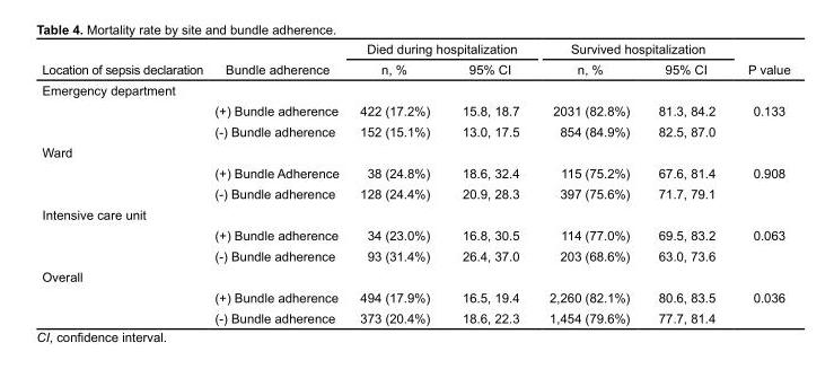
<table><thead><tr><td rowspan="2">Location of sepsis declaration</td><td rowspan="2">Bundle adherence</td><td colspan="2">Died during hospitalization</td><td colspan="2">Survived hospitalization</td><td rowspan="2">P value</td></tr><tr><td>n, %</td><td>95% CI</td><td>n, %</td><td>95% CI</td></tr></thead><tbody><tr><td colspan="7">Emergency department</td></tr><tr><td></td><td>(+) Bundle adherence</td><td>422 (17.2%)</td><td>15.8, 18.7</td><td>2031 (82.8%)</td><td>81.3, 84.2</td><td>0.133</td></tr><tr><td></td><td>(-) Bundle adherence</td><td>152 (15.1%)</td><td>13.0, 17.5</td><td>854 (84.9%)</td><td>82.5, 87.0</td><td></td></tr><tr><td colspan="7">Ward</td></tr><tr><td></td><td>(+) Bundle Adherence</td><td>38 (24.8%)</td><td>18.6, 32.4</td><td>115 (75.2%)</td><td>67.6, 81.4</td><td>0.908</td></tr><tr><td></td><td>(-) Bundle adherence</td><td>128 (24.4%)</td><td>20.9, 28.3</td><td>397 (75.6%)</td><td>71.7, 79.1</td><td></td></tr><tr><td colspan="7">Intensive care unit</td></tr><tr><td></td><td>(+) Bundle adherence</td><td>34 (23.0%)</td><td>16.8, 30.5</td><td>114 (77.0%)</td><td>69.5, 83.2</td><td>0.063</td></tr><tr><td></td><td>(-) Bundle adherence</td><td>93 (31.4%)</td><td>26.4, 37.0</td><td>203 (68.6%)</td><td>63.0, 73.6</td><td></td></tr><tr><td colspan="7">Overall</td></tr><tr><td></td><td>(+) Bundle adherence</td><td>494 (17.9%)</td><td>16.5, 19.4</td><td>2,260 (82.1%)</td><td>80.6, 83.5</td><td>0.036</td></tr><tr><td></td><td>(-) Bundle adherence</td><td>373 (20.4%)</td><td>18.6, 22.3</td><td>1,454 (79.6%)</td><td>77.7, 81.4</td><td></td></tr></tbody></table>